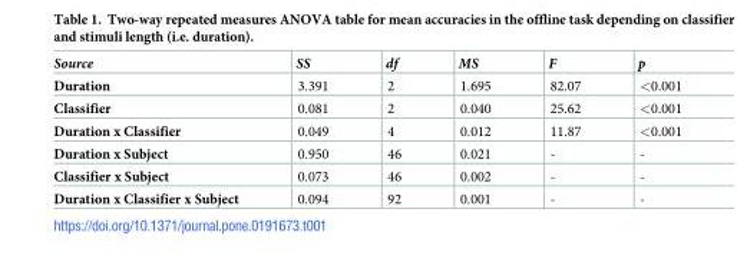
<table><thead><tr><td>Source</td><td>SS</td><td>df</td><td>MS</td><td>F</td><td>p</td></tr></thead><tbody><tr><td>Duration</td><td>3.391</td><td>2</td><td>1.695</td><td>82.07</td><td>&lt;0.001</td></tr><tr><td>Classifier</td><td>0.081</td><td>2</td><td>0.040</td><td>25.62</td><td>&lt;0.001</td></tr><tr><td>Duration x Classifier</td><td>0.049</td><td>4</td><td>0.012</td><td>11.87</td><td>&lt;0.001</td></tr><tr><td>Duration x Subject</td><td>0.950</td><td>46</td><td>0.021</td><td>-</td><td>-</td></tr><tr><td>Classifier x Subject</td><td>0.073</td><td>46</td><td>0.002</td><td>-</td><td>-</td></tr><tr><td>Duration x Classifier x Subject</td><td>0.094</td><td>92</td><td>0.001</td><td>-</td><td>-</td></tr></tbody></table>